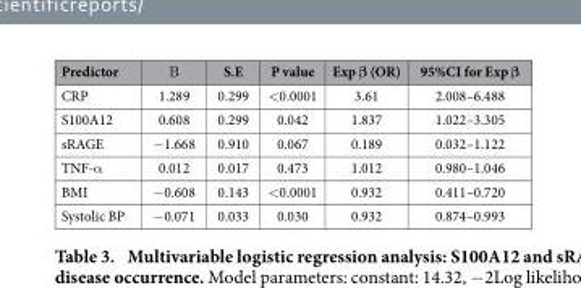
<table><thead><tr><td>Predictor</td><td>Β</td><td>S.E</td><td>P value</td><td>Exp β (OR)</td><td>95%CI for Exp β</td></tr></thead><tbody><tr><td>CRP</td><td>1.289</td><td>0.299</td><td>&lt; 0.0001</td><td>3.61</td><td>2.008–6.488</td></tr><tr><td>S100A12</td><td>0.608</td><td>0.299</td><td>0.042</td><td>1.837</td><td>1.022–3.305</td></tr><tr><td>sRAGE</td><td>− 1.668</td><td>0.910</td><td>0.067</td><td>0.189</td><td>0.032–1.122</td></tr><tr><td>TNF-α</td><td>0.012</td><td>0.017</td><td>0.473</td><td>1.012</td><td>0.980–1.046</td></tr><tr><td>BMI</td><td>− 0.608</td><td>0.143</td><td>&lt; 0.0001</td><td>0.932</td><td>0.411–0.720</td></tr><tr><td>Systolic BP</td><td>− 0.071</td><td>0.033</td><td>0.030</td><td>0.932</td><td>0.874–0.993</td></tr></tbody></table>